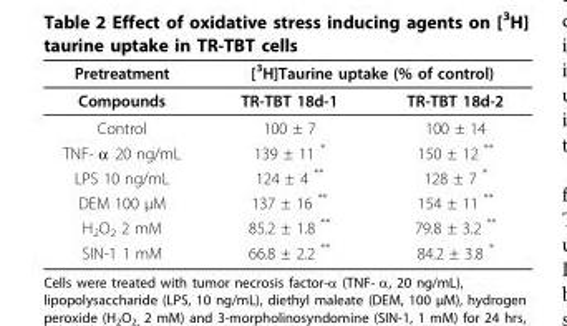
<table><thead><tr><td rowspan="2">Pretreatment Compounds</td><td colspan="2">[3H]Taurine uptake (% of control)</td></tr><tr><td>TR-TBT 18d-1</td><td>TR-TBT 18d-2</td></tr></thead><tbody><tr><td>Control</td><td>100 ± 7</td><td>100 ± 14</td></tr><tr><td>TNF- α 20 ng/mL</td><td>139 ± 11 *</td><td>150 ± 12 **</td></tr><tr><td>LPS 10 ng/mL</td><td>124 ± 4 **</td><td>128 ± 7 *</td></tr><tr><td>DEM 100 μM</td><td>137 ± 16 **</td><td>154 ± 11 **</td></tr><tr><td>H<sub>2</sub>O<sub>2</sub> 2 mM</td><td>85.2 ± 1.8 **</td><td>79.8 ± 3.2 **</td></tr><tr><td>SIN-1 1 mM</td><td>66.8 ± 2.2 **</td><td>84.2 ± 3.8 *</td></tr></tbody></table>